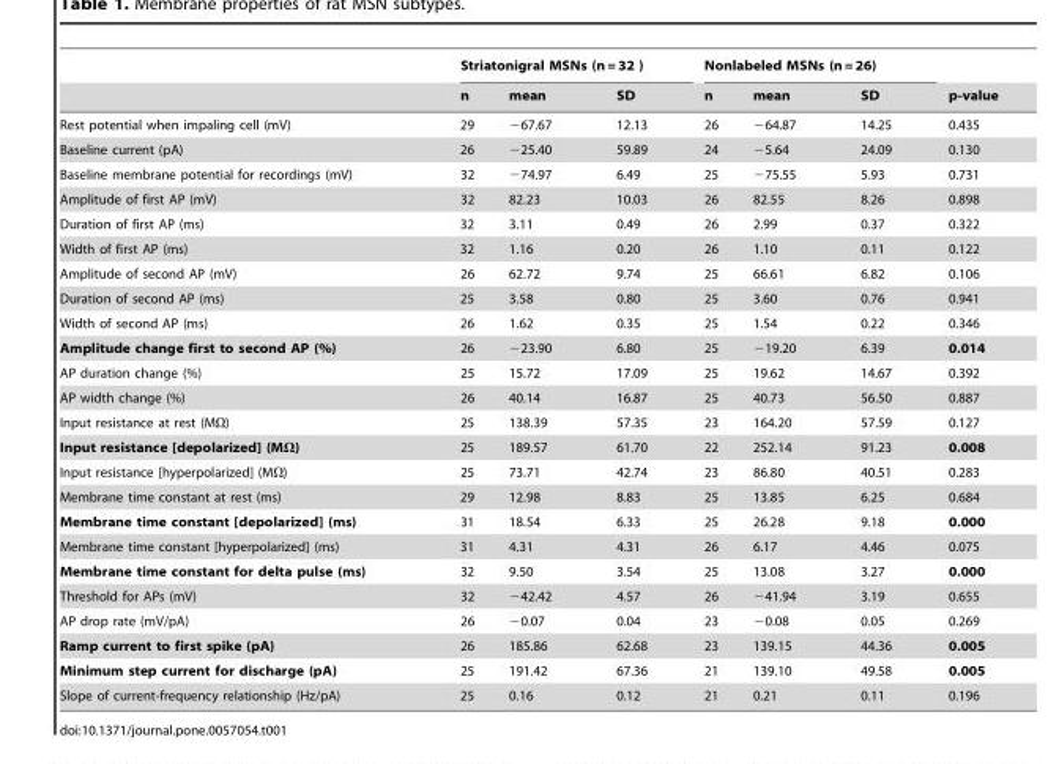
<table><thead><tr><td rowspan="2"></td><td colspan="3">Striatonigral MSNs (n = 32 )</td><td colspan="3">Nonlabeled MSNs (n = 26)</td><td rowspan="2">p-value</td></tr><tr><td>n</td><td>mean</td><td>SD</td><td>n</td><td>mean</td><td>SD</td></tr></thead><tbody><tr><td>Rest potential when impaling cell (mV)</td><td>29</td><td>−67.67</td><td>12.13</td><td>26</td><td>−64.87</td><td>14.25</td><td>0.435</td></tr><tr><td>Baseline current (pA)</td><td>26</td><td>−25.40</td><td>59.89</td><td>24</td><td>−5.64</td><td>24.09</td><td>0.130</td></tr><tr><td>Baseline membrane potential for recordings (mV)</td><td>32</td><td>−74.97</td><td>6.49</td><td>25</td><td>−75.55</td><td>5.93</td><td>0.731</td></tr><tr><td>Amplitude of first AP (mV)</td><td>32</td><td>82.23</td><td>10.03</td><td>26</td><td>82.55</td><td>8.26</td><td>0.898</td></tr><tr><td>Duration of first AP (ms)</td><td>32</td><td>3.11</td><td>0.49</td><td>26</td><td>2.99</td><td>0.37</td><td>0.322</td></tr><tr><td>Width of first AP (ms)</td><td>32</td><td>1.16</td><td>0.20</td><td>26</td><td>1.10</td><td>0.11</td><td>0.122</td></tr><tr><td>Amplitude of second AP (mV)</td><td>26</td><td>62.72</td><td>9.74</td><td>25</td><td>66.61</td><td>6.82</td><td>0.106</td></tr><tr><td>Duration of second AP (ms)</td><td>25</td><td>3.58</td><td>0.80</td><td>25</td><td>3.60</td><td>0.76</td><td>0.941</td></tr><tr><td>Width of second AP (ms)</td><td>26</td><td>1.62</td><td>0.35</td><td>25</td><td>1.54</td><td>0.22</td><td>0.346</td></tr><tr><td>Amplitude change first to second AP (%)</td><td>26</td><td>−23.90</td><td>6.80</td><td>25</td><td>−19.20</td><td>6.39</td><td>0.014</td></tr><tr><td>AP duration change (%)</td><td>25</td><td>15.72</td><td>17.09</td><td>25</td><td>19.62</td><td>14.67</td><td>0.392</td></tr><tr><td>AP width change (%)</td><td>26</td><td>40.14</td><td>16.87</td><td>25</td><td>40.73</td><td>56.50</td><td>0.887</td></tr><tr><td>Input resistance at rest (MΩ)</td><td>25</td><td>138.39</td><td>57.35</td><td>23</td><td>164.20</td><td>57.59</td><td>0.127</td></tr><tr><td>Input resistance [depolarized] (MΩ)</td><td>25</td><td>189.57</td><td>61.70</td><td>22</td><td>252.14</td><td>91.23</td><td>0.008</td></tr><tr><td>Input resistance [hyperpolarized] (MΩ)</td><td>25</td><td>73.71</td><td>42.74</td><td>23</td><td>86.80</td><td>40.51</td><td>0.283</td></tr><tr><td>Membrane time constant at rest (ms)</td><td>29</td><td>12.98</td><td>8.83</td><td>25</td><td>13.85</td><td>6.25</td><td>0.684</td></tr><tr><td>Membrane time constant [depolarized] (ms)</td><td>31</td><td>18.54</td><td>6.33</td><td>25</td><td>26.28</td><td>9.18</td><td>0.000</td></tr><tr><td>Membrane time constant [hyperpolarized] (ms)</td><td>31</td><td>4.31</td><td>4.31</td><td>26</td><td>6.17</td><td>4.46</td><td>0.075</td></tr><tr><td>Membrane time constant for delta pulse (ms)</td><td>32</td><td>9.50</td><td>3.54</td><td>25</td><td>13.08</td><td>3.27</td><td>0.000</td></tr><tr><td>Threshold for APs (mV)</td><td>32</td><td>−42.42</td><td>4.57</td><td>26</td><td>−41.94</td><td>3.19</td><td>0.655</td></tr><tr><td>AP drop rate (mV/pA)</td><td>26</td><td>−0.07</td><td>0.04</td><td>23</td><td>−0.08</td><td>0.05</td><td>0.269</td></tr><tr><td>Ramp current to first spike (pA)</td><td>26</td><td>185.86</td><td>62.68</td><td>23</td><td>139.15</td><td>44.36</td><td>0.005</td></tr><tr><td>Minimum step current for discharge (pA)</td><td>25</td><td>191.42</td><td>67.36</td><td>21</td><td>139.10</td><td>49.58</td><td>0.005</td></tr><tr><td>Slope of current-frequency relationship (Hz/pA)</td><td>25</td><td>0.16</td><td>0.12</td><td>21</td><td>0.21</td><td>0.11</td><td>0.196</td></tr></tbody></table>